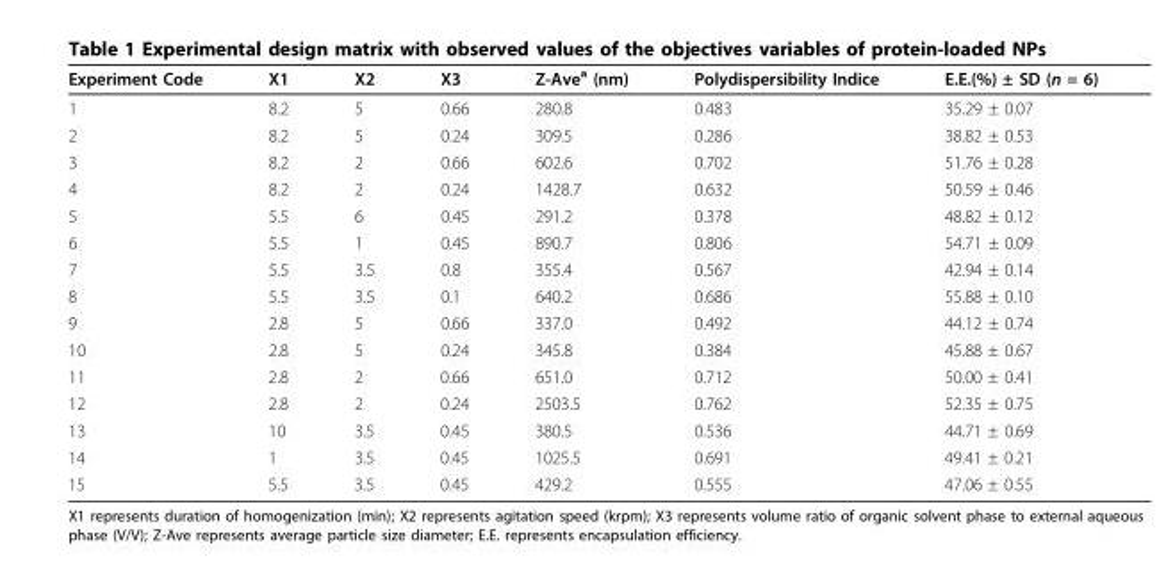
<table><thead><tr><td>Experiment Code</td><td>X1</td><td>X2</td><td>X3</td><td>Z-Ave<sup>a</sup> (nm)</td><td>Polydispersibility Indice</td><td>E.E.(%) ± SD (n = 6)</td></tr></thead><tbody><tr><td>1</td><td>8.2</td><td>5</td><td>0.66</td><td>280.8</td><td>0.483</td><td>35.29 ± 0.07</td></tr><tr><td>2</td><td>8.2</td><td>5</td><td>0.24</td><td>309.5</td><td>0.286</td><td>38.82 ± 0.53</td></tr><tr><td>3</td><td>8.2</td><td>2</td><td>0.66</td><td>602.6</td><td>0.702</td><td>51.76 ± 0.28</td></tr><tr><td>4</td><td>8.2</td><td>2</td><td>0.24</td><td>1428.7</td><td>0.632</td><td>50.59 ± 0.46</td></tr><tr><td>5</td><td>5.5</td><td>6</td><td>0.45</td><td>291.2</td><td>0.378</td><td>48.82 ± 0.12</td></tr><tr><td>6</td><td>5.5</td><td>1</td><td>0.45</td><td>890.7</td><td>0.806</td><td>54.71 ± 0.09</td></tr><tr><td>7</td><td>5.5</td><td>3.5</td><td>0.8</td><td>355.4</td><td>0.567</td><td>42.94 ± 0.14</td></tr><tr><td>8</td><td>5.5</td><td>3.5</td><td>0.1</td><td>640.2</td><td>0.686</td><td>55.88 ± 0.10</td></tr><tr><td>9</td><td>2.8</td><td>5</td><td>0.66</td><td>337.0</td><td>0.492</td><td>44.12 ± 0.74</td></tr><tr><td>10</td><td>2.8</td><td>5</td><td>0.24</td><td>345.8</td><td>0.384</td><td>45.88 ± 0.67</td></tr><tr><td>11</td><td>2.8</td><td>2</td><td>0.66</td><td>651.0</td><td>0.712</td><td>50.00 ± 0.41</td></tr><tr><td>12</td><td>2.8</td><td>2</td><td>0.24</td><td>2503.5</td><td>0.762</td><td>52.35 ± 0.75</td></tr><tr><td>13</td><td>10</td><td>3.5</td><td>0.45</td><td>380.5</td><td>0.536</td><td>44.71 ± 0.69</td></tr><tr><td>14</td><td>1</td><td>3.5</td><td>0.45</td><td>1025.5</td><td>0.691</td><td>49.41 ± 0.21</td></tr><tr><td>15</td><td>5.5</td><td>3.5</td><td>0.45</td><td>429.2</td><td>0.555</td><td>47.06 ± 0.55</td></tr></tbody></table>